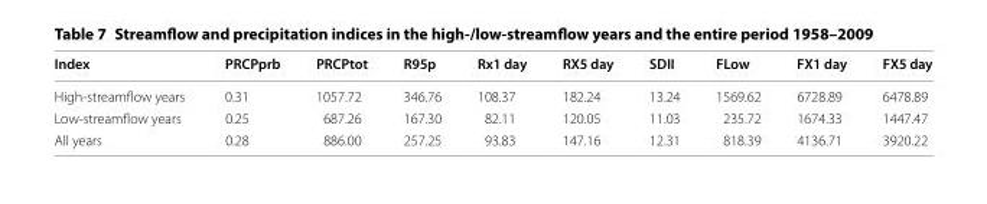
<table><thead><tr><td>Index</td><td>PRCPprb</td><td>PRCPtot</td><td>R95p</td><td>Rx1 day</td><td>RX5 day</td><td>SDII</td><td>FLow</td><td>FX1 day</td><td>FX5 day</td></tr></thead><tbody><tr><td>High-streamflow years</td><td>0.31</td><td>1057.72</td><td>346.76</td><td>108.37</td><td>182.24</td><td>13.24</td><td>1569.62</td><td>6728.89</td><td>6478.89</td></tr><tr><td>Low-streamflow years</td><td>0.25</td><td>687.26</td><td>167.30</td><td>82.11</td><td>120.05</td><td>11.03</td><td>235.72</td><td>1674.33</td><td>1447.47</td></tr><tr><td>All years</td><td>0.28</td><td>886.00</td><td>257.25</td><td>93.83</td><td>147.16</td><td>12.31</td><td>818.39</td><td>4136.71</td><td>3920.22</td></tr></tbody></table>